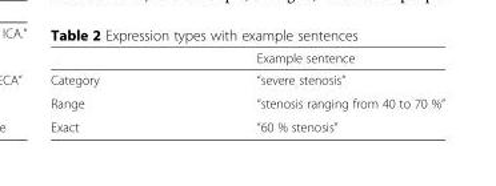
<table><thead><tr><td></td><td>Example sentence</td></tr></thead><tbody><tr><td>Category</td><td>“severe stenosis”</td></tr><tr><td>Range</td><td>“stenosis ranging from 40 to 70 %”</td></tr><tr><td>Exact</td><td>“60 % stenosis”</td></tr></tbody></table>